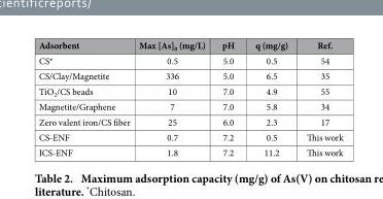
<table><thead><tr><td>Adsorbent</td><td>Max [As]<sub>0</sub> (mg/L)</td><td>pH</td><td>q (mg/g)</td><td>Ref.</td></tr></thead><tbody><tr><td>CS*</td><td>0.5</td><td>5.0</td><td>0.5</td><td>54</td></tr><tr><td>CS/Clay/Magnetite</td><td>336</td><td>5.0</td><td>6.5</td><td>35</td></tr><tr><td>TiO<sub>2</sub>/CS beads</td><td>10</td><td>7.0</td><td>4.9</td><td>55</td></tr><tr><td>Magnetite/Graphene</td><td>7</td><td>7.0</td><td>5.8</td><td>34</td></tr><tr><td>Zero valent iron/CS fiber</td><td>25</td><td>6.0</td><td>2.3</td><td>17</td></tr><tr><td>CS-ENF</td><td>0.7</td><td>7.2</td><td>0.5</td><td>This work</td></tr><tr><td>ICS-ENF</td><td>1.8</td><td>7.2</td><td>11.2</td><td>This work</td></tr></tbody></table>